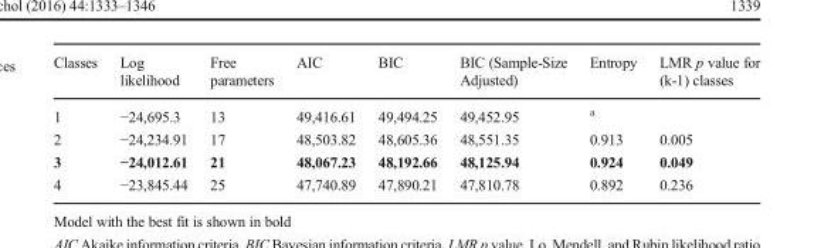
<table><thead><tr><td>Classes</td><td>Log likelihood</td><td>Free parameters</td><td>AIC</td><td>BIC</td><td>BIC (Sample-Size Adjusted)</td><td>Entropy</td><td>LMR p value for (k-1) classes</td></tr></thead><tbody><tr><td>1</td><td>−24,695.3</td><td>13</td><td>49,416.61</td><td>49,494.25</td><td>49,452.95</td><td><sup>a</sup></td><td></td></tr><tr><td>2</td><td>−24,234.91</td><td>17</td><td>48,503.82</td><td>48,605.36</td><td>48,551.35</td><td>0.913</td><td>0.005</td></tr><tr><td>3</td><td>−24,012.61</td><td>21</td><td>48,067.23</td><td>48,192.66</td><td>48,125.94</td><td>0.924</td><td>0.049</td></tr><tr><td>4</td><td>−23,845.44</td><td>25</td><td>47,740.89</td><td>47,890.21</td><td>47,810.78</td><td>0.892</td><td>0.236</td></tr></tbody></table>